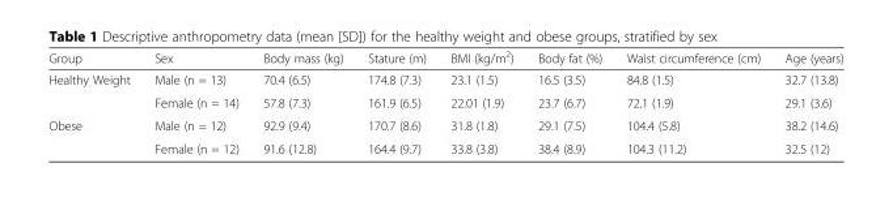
<table><thead><tr><td>Group</td><td>Sex</td><td>Body mass (kg)</td><td>Stature (m)</td><td>BMI (kg/m<sup>2</sup>)</td><td>Body fat (%)</td><td>Waist circumference (cm)</td><td>Age (years)</td></tr></thead><tbody><tr><td rowspan="2">Healthy Weight</td><td>Male (n = 13)</td><td>70.4 (6.5)</td><td>174.8 (7.3)</td><td>23.1 (1.5)</td><td>16.5 (3.5)</td><td>84.8 (1.5)</td><td>32.7 (13.8)</td></tr><tr><td>Female (n = 14)</td><td>57.8 (7.3)</td><td>161.9 (6.5)</td><td>22.01 (1.9)</td><td>23.7 (6.7)</td><td>72.1 (1.9)</td><td>29.1 (3.6)</td></tr><tr><td rowspan="2">Obese</td><td>Male (n = 12)</td><td>92.9 (9.4)</td><td>170.7 (8.6)</td><td>31.8 (1.8)</td><td>29.1 (7.5)</td><td>104.4 (5.8)</td><td>38.2 (14.6)</td></tr><tr><td>Female (n = 12)</td><td>91.6 (12.8)</td><td>164.4 (9.7)</td><td>33.8 (3.8)</td><td>38.4 (8.9)</td><td>104.3 (11.2)</td><td>32.5 (12)</td></tr></tbody></table>